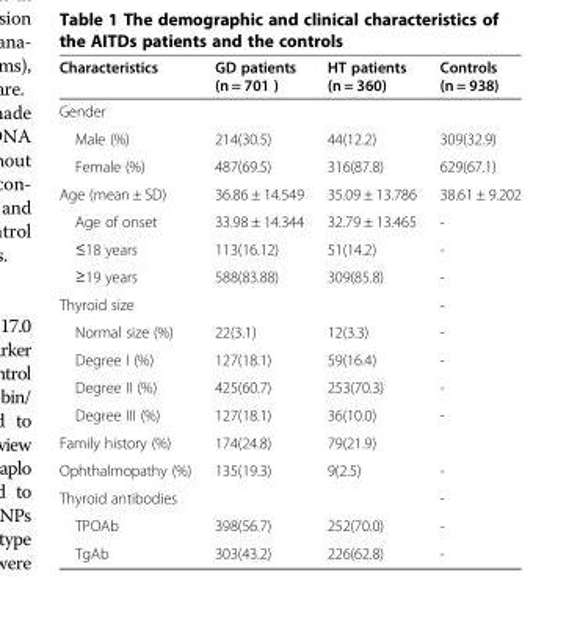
<table><thead><tr><td>Characteristics</td><td>GD patients (n = 701 )</td><td>HT patients (n = 360)</td><td>Controls (n = 938)</td></tr></thead><tbody><tr><td colspan="4">Gender</td></tr><tr><td>Male (%)</td><td>214(30.5)</td><td>44(12.2)</td><td>309(32.9)</td></tr><tr><td>Female (%)</td><td>487(69.5)</td><td>316(87.8)</td><td>629(67.1)</td></tr><tr><td>Age (mean ± SD)</td><td>36.86 ± 14.549</td><td>35.09 ± 13.786</td><td>38.61 ± 9.202</td></tr><tr><td>Age of onset</td><td>33.98 ± 14.344</td><td>32.79 ± 13.465</td><td>-</td></tr><tr><td>≤18 years</td><td>113(16.12)</td><td>51(14.2)</td><td>-</td></tr><tr><td>≥19 years</td><td>588(83.88)</td><td>309(85.8)</td><td>-</td></tr><tr><td>Thyroid size</td><td></td><td></td><td>-</td></tr><tr><td>Normal size (%)</td><td>22(3.1)</td><td>12(3.3)</td><td>-</td></tr><tr><td>Degree I (%)</td><td>127(18.1)</td><td>59(16.4)</td><td>-</td></tr><tr><td>Degree II (%)</td><td>425(60.7)</td><td>253(70.3)</td><td>-</td></tr><tr><td>Degree III (%)</td><td>127(18.1)</td><td>36(10.0)</td><td>-</td></tr><tr><td>Family history (%)</td><td>174(24.8)</td><td>79(21.9)</td><td></td></tr><tr><td>Ophthalmopathy (%)</td><td>135(19.3)</td><td>9(2.5)</td><td>-</td></tr><tr><td>Thyroid antibodies</td><td></td><td></td><td>-</td></tr><tr><td>TPOAb</td><td>398(56.7)</td><td>252(70.0)</td><td>-</td></tr><tr><td>TgAb</td><td>303(43.2)</td><td>226(62.8)</td><td>-</td></tr></tbody></table>